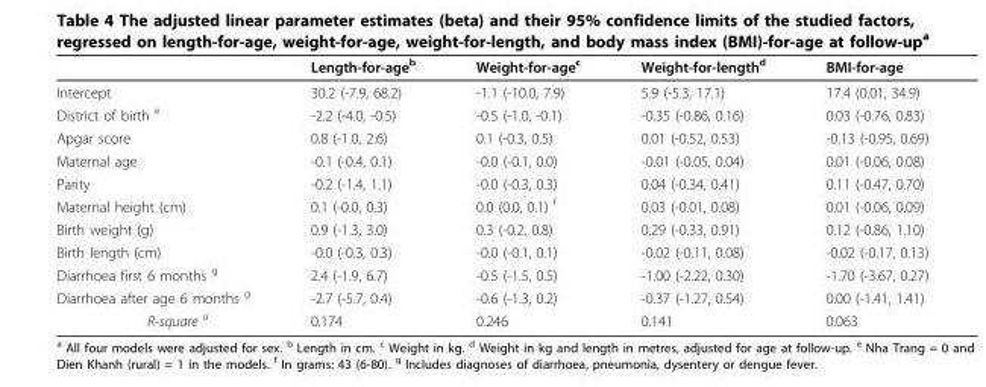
<table><thead><tr><td></td><td>Length-for-age<sup>b</sup></td><td>Weight-for-age<sup>c</sup></td><td>Weight-for-length<sup>d</sup></td><td>BMI-for-age</td></tr></thead><tbody><tr><td>Intercept</td><td>30.2 (-7.9, 68.2)</td><td>-1.1 (-10.0, 7.9)</td><td>5.9 (-5.3, 17.1)</td><td>17.4 (0.01, 34.9)</td></tr><tr><td>District of birth <sup>e</sup></td><td>-2.2 (-4.0, -0.5)</td><td>-0.5 (-1.0, -0.1)</td><td>-0.35 (-0.86, 0.16)</td><td>0.03 (-0.76, 0.83)</td></tr><tr><td>Apgar score</td><td>0.8 (-1.0, 2.6)</td><td>0.1 (-0.3, 0.5)</td><td>0.01 (-0.52, 0.53)</td><td>-0.13 (-0.95, 0.69)</td></tr><tr><td>Maternal age</td><td>-0.1 (-0.4, 0.1)</td><td>-0.0 (-0.1, 0.0)</td><td>-0.01 (-0.05, 0.04)</td><td>0.01 (-0.06, 0.08)</td></tr><tr><td>Parity</td><td>-0.2 (-1.4, 1.1)</td><td>-0.0 (-0.3, 0.3)</td><td>0.04 (-0.34, 0.41)</td><td>0.11 (-0.47, 0.70)</td></tr><tr><td>Maternal height (cm)</td><td>0.1 (-0.0, 0.3)</td><td>0.0 (0.0, 0.1) <sup>f</sup></td><td>0.03 (-0.01, 0.08)</td><td>0.01 (-0.06, 0.09)</td></tr><tr><td>Birth weight (g)</td><td>0.9 (-1.3, 3.0)</td><td>0.3 (-0.2, 0.8)</td><td>0.29 (-0.33, 0.91)</td><td>0.12 (-0.86, 1.10)</td></tr><tr><td>Birth length (cm)</td><td>-0.0 (-0.3, 0.3)</td><td>-0.0 (-0.1, 0.1)</td><td>-0.02 (-0.11, 0.08)</td><td>-0.02 (-0.17, 0.13)</td></tr><tr><td>Diarrhoea first 6 months <sup>g</sup></td><td>2.4 (-1.9, 6.7)</td><td>-0.5 (-1.5, 0.5)</td><td>-1.00 (-2.22, 0.30)</td><td>-1.70 (-3.67, 0.27)</td></tr><tr><td>Diarrhoea after age 6 months <sup>g</sup></td><td>-2.7 (-5.7, 0.4)</td><td>-0.6 (-1.3, 0.2)</td><td>-0.37 (-1.27, 0.54)</td><td>0.00 (-1.41, 1.41)</td></tr><tr><td>R-square <sup>a</sup></td><td>0.174</td><td>0.246</td><td>0.141</td><td>0.063</td></tr></tbody></table>